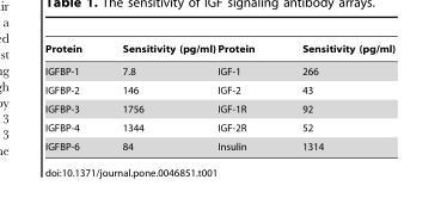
<table><thead><tr><td>Protein</td><td>Sensitivity (pg/ml)</td><td>Protein</td><td>Sensitivity (pg/ml)</td></tr></thead><tbody><tr><td>IGFBP-1</td><td>7.8</td><td>IGF-1</td><td>266</td></tr><tr><td>IGFBP-2</td><td>146</td><td>IGF-2</td><td>43</td></tr><tr><td>IGFBP-3</td><td>1756</td><td>IGF-1R</td><td>92</td></tr><tr><td>IGFBP-4</td><td>1344</td><td>IGF-2R</td><td>52</td></tr><tr><td>IGFBP-6</td><td>84</td><td>Insulin</td><td>1314</td></tr></tbody></table>